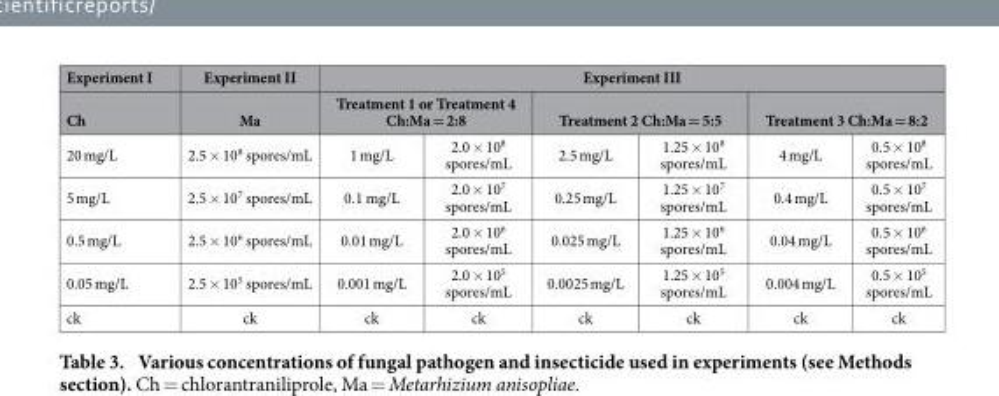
<table><thead><tr><td rowspan="3">Experiment I Ch 20 mg/L</td><td rowspan="3">Experiment II Ma 2.5 × 10<sup>8</sup> spores/mL</td><td colspan="6">Experiment III</td></tr><tr><td colspan="2">Treatment 1 or Treatment 4 Ch:Ma = 2:8</td><td colspan="2">Treatment 2 Ch:Ma = 5:5</td><td colspan="2">Treatment 3 Ch:Ma = 8:2</td></tr><tr><td>1 mg/L</td><td>2.0 × 10<sup>8</sup> spores/mL</td><td>2.5 mg/L</td><td>1.25 × 10<sup>8</sup> spores/mL</td><td>4 mg/L</td><td>0.5 × 10<sup>8</sup> spores/mL</td></tr></thead><tbody><tr><td>5 mg/L</td><td>2.5 × 10<sup>7</sup> spores/mL</td><td>0.1 mg/L</td><td>2.0 × 10<sup>7</sup> spores/mL</td><td>0.25 mg/L</td><td>1.25 × 10<sup>7</sup> spores/mL</td><td>0.4 mg/L</td><td>0.5 × 10<sup>7</sup> spores/mL</td></tr><tr><td>0.5 mg/L</td><td>2.5 × 10<sup>6</sup> spores/mL</td><td>0.01 mg/L</td><td>2.0 × 10<sup>6</sup> spores/mL</td><td>0.025 mg/L</td><td>1.25 × 10<sup>6</sup> spores/mL</td><td>0.04 mg/L</td><td>0.5 × 10<sup>6</sup> spores/mL</td></tr><tr><td>0.05 mg/L</td><td>2.5 × 10<sup>5</sup> spores/mL</td><td>0.001 mg/L</td><td>2.0 × 10<sup>5</sup> spores/mL</td><td>0.0025 mg/L</td><td>1.25 × 10<sup>5</sup> spores/mL</td><td>0.004 mg/L</td><td>0.5 × 10<sup>5</sup> spores/mL</td></tr><tr><td>ck</td><td>ck</td><td>ck</td><td>ck</td><td>ck</td><td>ck</td><td>ck</td><td>ck</td></tr></tbody></table>